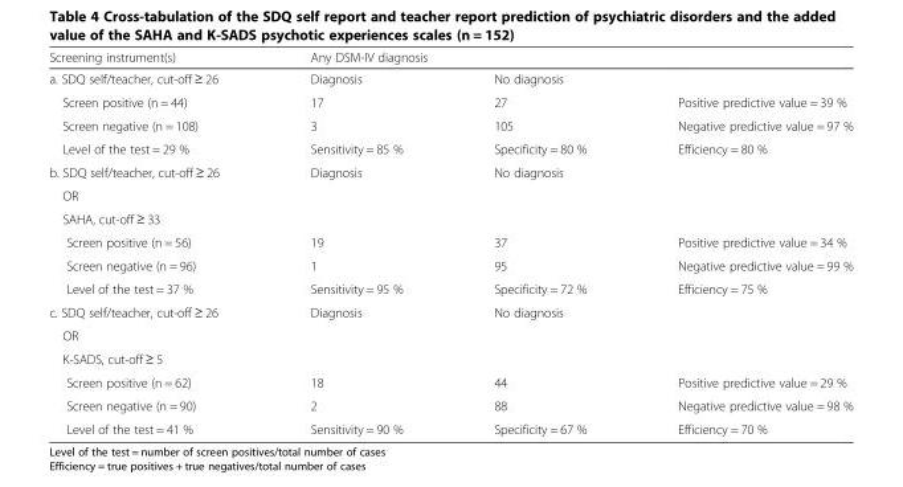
<table><thead><tr><td rowspan="2">Screening instrument(s) a. SDQ self/teacher, cut-off ≥ 26</td><td colspan="2">Any DSM-IV diagnosis</td><td rowspan="2"></td></tr><tr><td>Diagnosis</td><td>No diagnosis</td></tr></thead><tbody><tr><td>Screen positive (n = 44)</td><td>17</td><td>27</td><td>Positive predictive value = 39 %</td></tr><tr><td>Screen negative (n = 108)</td><td>3</td><td>105</td><td>Negative predictive value = 97 %</td></tr><tr><td>Level of the test = 29 %</td><td>Sensitivity = 85 %</td><td>Specificity = 80 %</td><td>Efficiency = 80 %</td></tr><tr><td>b. SDQ self/teacher, cut-off ≥ 26</td><td rowspan="3">Diagnosis</td><td rowspan="3">No diagnosis</td><td rowspan="3"></td></tr><tr><td>OR</td></tr><tr><td>SAHA, cut-off ≥ 33</td></tr><tr><td>Screen positive (n = 56)</td><td>19</td><td>37</td><td>Positive predictive value = 34 %</td></tr><tr><td>Screen negative (n = 96)</td><td>1</td><td>95</td><td>Negative predictive value = 99 %</td></tr><tr><td>Level of the test = 37 %</td><td>Sensitivity = 95 %</td><td>Specificity = 72 %</td><td>Efficiency = 75 %</td></tr><tr><td>c. SDQ self/teacher, cut-off ≥ 26</td><td rowspan="3">Diagnosis</td><td rowspan="3">No diagnosis</td><td rowspan="3"></td></tr><tr><td>OR</td></tr><tr><td>K-SADS, cut-off ≥ 5</td></tr><tr><td>Screen positive (n = 62)</td><td>18</td><td>44</td><td>Positive predictive value = 29 %</td></tr><tr><td>Screen negative (n = 90)</td><td>2</td><td>88</td><td>Negative predictive value = 98 %</td></tr><tr><td>Level of the test = 41 %</td><td>Sensitivity = 90 %</td><td>Specificity = 67 %</td><td>Efficiency = 70 %</td></tr></tbody></table>